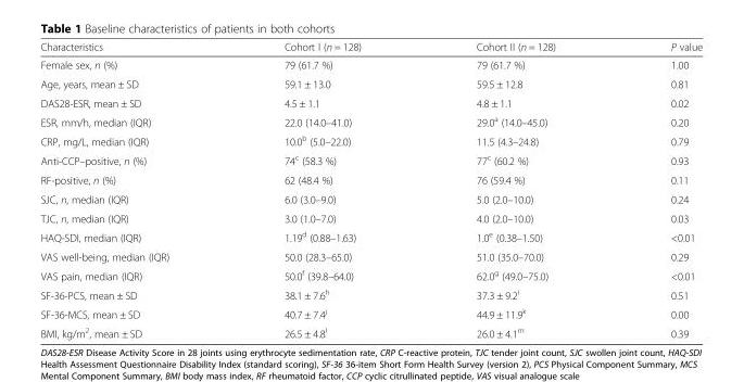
<table><thead><tr><td>Characteristics</td><td>Cohort I (n = 128)</td><td>Cohort II (n = 128)</td><td>P value</td></tr></thead><tbody><tr><td>Female sex, n (%)</td><td>79 (61.7 %)</td><td>79 (61.7 %)</td><td>1.00</td></tr><tr><td>Age, years, mean ± SD</td><td>59.1 ± 13.0</td><td>59.5 ± 12.8</td><td>0.81</td></tr><tr><td>DAS28-ESR, mean ± SD</td><td>4.5 ± 1.1</td><td>4.8 ± 1.1</td><td>0.02</td></tr><tr><td>ESR, mm/h, median (IQR)</td><td>22.0 (14.0–41.0)</td><td>29.0<sup>a</sup> (14.0–45.0)</td><td>0.20</td></tr><tr><td>CRP, mg/L, median (IQR)</td><td>10.0<sup>b</sup> (5.0–22.0)</td><td>11.5 (4.3–24.8)</td><td>0.79</td></tr><tr><td>Anti-CCP–positive, n (%)</td><td>74<sup>c</sup> (58.3 %)</td><td>77<sup>c</sup> (60.2 %)</td><td>0.93</td></tr><tr><td>RF-positive, n (%)</td><td>62 (48.4 %)</td><td>76 (59.4 %)</td><td>0.11</td></tr><tr><td>SJC, n, median (IQR)</td><td>6.0 (3.0–9.0)</td><td>5.0 (2.0–10.0)</td><td>0.24</td></tr><tr><td>TJC, n, median (IQR)</td><td>3.0 (1.0–7.0)</td><td>4.0 (2.0–10.0)</td><td>0.03</td></tr><tr><td>HAQ-SDI, median (IQR)</td><td>1.19<sup>d</sup> (0.88–1.63)</td><td>1.0<sup>e</sup> (0.38–1.50)</td><td>&lt;0.01</td></tr><tr><td>VAS well-being, median (IQR)</td><td>50.0 (28.3–65.0)</td><td>51.0 (35.0–70.0)</td><td>0.29</td></tr><tr><td>VAS pain, median (IQR)</td><td>50.0<sup>f</sup> (39.8–64.0)</td><td>62.0<sup>g</sup> (49.0–75.0)</td><td>&lt;0.01</td></tr><tr><td>SF-36-PCS, mean ± SD</td><td>38.1 ± 7.6<sup>h</sup></td><td>37.3 ± 9.2<sup>i</sup></td><td>0.51</td></tr><tr><td>SF-36-MCS, mean ± SD</td><td>40.7 ± 7.4<sup>j</sup></td><td>44.9 ± 11.9<sup>k</sup></td><td>0.00</td></tr><tr><td>BMI, kg/m<sup>2</sup>, mean ± SD</td><td>26.5 ± 4.8<sup>l</sup></td><td>26.0 ± 4.1<sup>m</sup></td><td>0.39</td></tr></tbody></table>